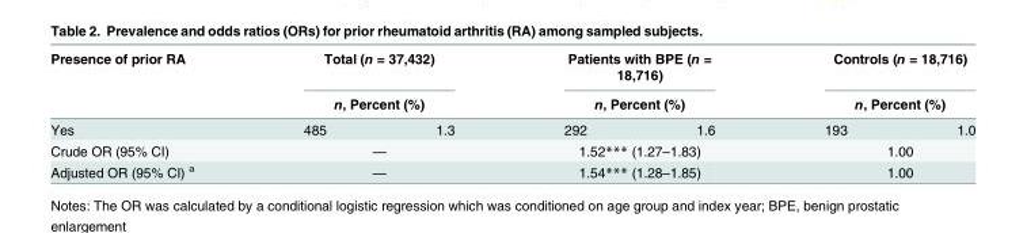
<table><thead><tr><td rowspan="3">Presence of prior RA Yes</td><td rowspan="2" colspan="2">Total (n = 37,432) n, Percent (%)</td><td rowspan="2" colspan="2">Patients with BPE (n = 18,716) n, Percent (%)</td><td rowspan="2" colspan="2">Controls (n = 18,716) n, Percent (%)</td></tr><tr></tr><tr><td>485</td><td>1.3</td><td>292</td><td>1.6</td><td>193</td><td>1.0</td></tr></thead><tbody><tr><td>Crude OR (95% CI)</td><td colspan="2">—</td><td colspan="2">1.52*** (1.27–1.83)</td><td colspan="2">1.00</td></tr><tr><td>Adjusted OR (95% CI) <sup>a</sup></td><td colspan="2">—</td><td colspan="2">1.54*** (1.28–1.85)</td><td colspan="2">1.00</td></tr></tbody></table>